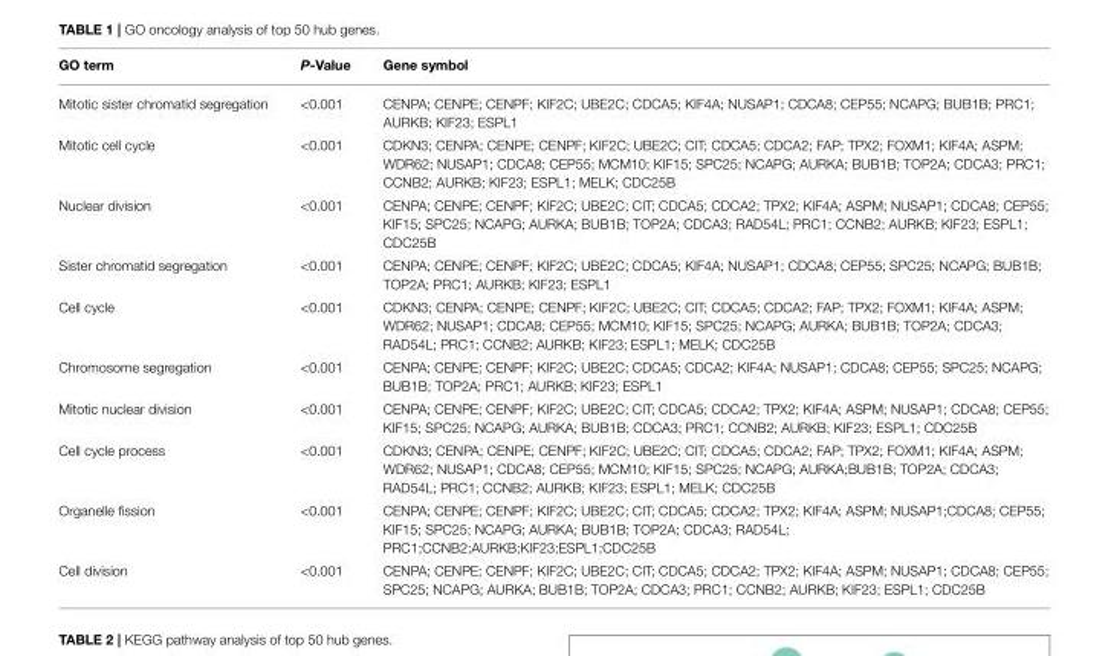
<table><thead><tr><td>GO term</td><td>P-Value</td><td>Gene symbol</td></tr></thead><tbody><tr><td>Mitotic sister chromatid segregation</td><td>&lt;0.001</td><td>CENPA; CENPE; CENPF; KIF2C; UBE2C; CDCA5; KIF4A; NUSAP1; CDCA8; CEP55; NCAPG; BUB1B; PRC1; AURKB; KIF23; ESPL1</td></tr><tr><td>Mitotic cell cycle</td><td>&lt;0.001</td><td>CDKN3; CENPA; CENPE; CENPF; KIF2C; UBE2C; CIT; CDCA5; CDCA2; FAP; TPX2; FOXM1; KIF4A; ASPM; WDR62; NUSAP1; CDCA8; CEP55; MCM10; KIF15; SPC25; NCAPG; AURKA; BUB1B; TOP2A; CDCA3; PRC1; CCNB2; AURKB; KIF23; ESPL1; MELK; CDC25B</td></tr><tr><td>Nuclear division</td><td>&lt;0.001</td><td>CENPA; CENPE; CENPF; KIF2C; UBE2C; CIT; CDCA5; CDCA2; TPX2; KIF4A; ASPM; NUSAP1; CDCA8; CEP55; KIF15; SPC25; NCAPG; AURKA; BUB1B; TOP2A; CDCA3; RAD54L; PRC1; CCNB2; AURKB; KIF23; ESPL1; CDC25B</td></tr><tr><td>Sister chromatid segregation</td><td>&lt;0.001</td><td>CENPA; CENPE; CENPF; KIF2C; UBE2C; CDCA5; KIF4A; NUSAP1; CDCA8; CEP55; SPC25; NCAPG; BUB1B; TOP2A; PRC1; AURKB; KIF23; ESPL1</td></tr><tr><td>Cell cycle</td><td>&lt;0.001</td><td>CDKN3; CENPA; CENPE; CENPF; KIF2C; UBE2C; CIT; CDCA5; CDCA2; FAP; TPX2; FOXM1; KIF4A; ASPM; WDR62; NUSAP1; CDCA8; CEP55; MCM10; KIF15; SPC25; NCAPG; AURKA; BUB1B; TOP2A; CDCA3; RAD54L; PRC1; CCNB2; AURKB; KIF23; ESPL1; MELK; CDC25B</td></tr><tr><td>Chromosome segregation</td><td>&lt;0.001</td><td>CENPA; CENPE; CENPF; KIF2C; UBE2C; CDCA5; CDCA2; KIF4A; NUSAP1; CDCA8; CEP55; SPC25; NCAPG; BUB1B; TOP2A; PRC1; AURKB; KIF23; ESPL1</td></tr><tr><td>Mitotic nuclear division</td><td>&lt;0.001</td><td>CENPA; CENPE; CENPF; KIF2C; UBE2C; CIT; CDCA5; CDCA2; TPX2; KIF4A; ASPM; NUSAP1; CDCA8; CEP55; KIF15; SPC25; NCAPG; AURKA; BUB1B; CDCA3; PRC1; CCNB2; AURKB; KIF23; ESPL1; CDC25B</td></tr><tr><td>Cell cycle process</td><td>&lt;0.001</td><td>CDKN3; CENPA; CENPE; CENPF; KIF2C; UBE2C; CIT; CDCA5; CDCA2; FAP; TPX2; FOXM1; KIF4A; ASPM; WDR62; NUSAP1; CDCA8; CEP55; MCM10; KIF15; SPC25; NCAPG; AURKA;BUB1B; TOP2A; CDCA3; RAD54L; PRC1; CCNB2; AURKB; KIF23; ESPL1; MELK; CDC25B</td></tr><tr><td>Organelle fission</td><td>&lt;0.001</td><td>CENPA; CENPE; CENPF; KIF2C; UBE2C; CIT; CDCA5; CDCA2; TPX2; KIF4A; ASPM; NUSAP1;CDCA8; CEP55; KIF15; SPC25; NCAPG; AURKA; BUB1B; TOP2A; CDCA3; RAD54L; PRC1;CCNB2;AURKB;KIF23;ESPL1;CDC25B</td></tr><tr><td>Cell division</td><td>&lt;0.001</td><td>CENPA; CENPE; CENPF; KIF2C; UBE2C; CIT; CDCA5; CDCA2; TPX2; KIF4A; ASPM; NUSAP1; CDCA8; CEP55; SPC25; NCAPG; AURKA; BUB1B; TOP2A; CDCA3; PRC1; CCNB2; AURKB; KIF23; ESPL1; CDC25B</td></tr></tbody></table>